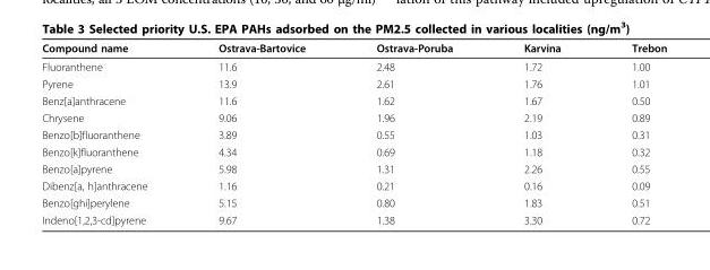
<table><thead><tr><td>Compound name</td><td>Ostrava-Bartovice</td><td>Ostrava-Poruba</td><td>Karvina</td><td>Trebon</td></tr></thead><tbody><tr><td>Fluoranthene</td><td>11.6</td><td>2.48</td><td>1.72</td><td>1.00</td></tr><tr><td>Pyrene</td><td>13.9</td><td>2.61</td><td>1.76</td><td>1.01</td></tr><tr><td>Benz[a]anthracene</td><td>11.6</td><td>1.62</td><td>1.67</td><td>0.50</td></tr><tr><td>Chrysene</td><td>9.06</td><td>1.96</td><td>2.19</td><td>0.89</td></tr><tr><td>Benzo[b]fluoranthene</td><td>3.89</td><td>0.55</td><td>1.03</td><td>0.31</td></tr><tr><td>Benzo[k]fluoranthene</td><td>4.34</td><td>0.69</td><td>1.18</td><td>0.32</td></tr><tr><td>Benzo[a]pyrene</td><td>5.98</td><td>1.31</td><td>2.26</td><td>0.55</td></tr><tr><td>Dibenz[a, h]anthracene</td><td>1.16</td><td>0.21</td><td>0.16</td><td>0.09</td></tr><tr><td>Benzo[ghi]perylene</td><td>5.15</td><td>0.80</td><td>1.83</td><td>0.51</td></tr><tr><td>Indeno[1,2,3-cd]pyrene</td><td>9.67</td><td>1.38</td><td>3.30</td><td>0.72</td></tr></tbody></table>